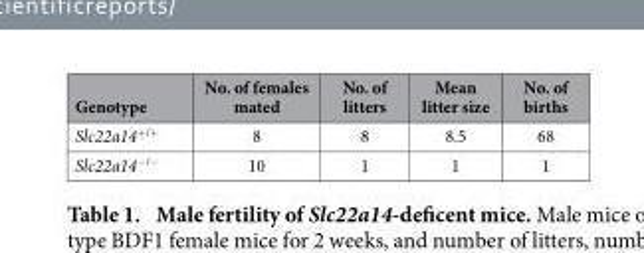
<table><thead><tr><td>Genotype</td><td>No. of females mated</td><td>No. of litters</td><td>Mean litter size</td><td>No. of births</td></tr></thead><tbody><tr><td>Slc22a14<sup>+/+</sup></td><td>8</td><td>8</td><td>8.5</td><td>68</td></tr><tr><td>Slc22a14<sup>−/−</sup></td><td>10</td><td>1</td><td>1</td><td>1</td></tr></tbody></table>